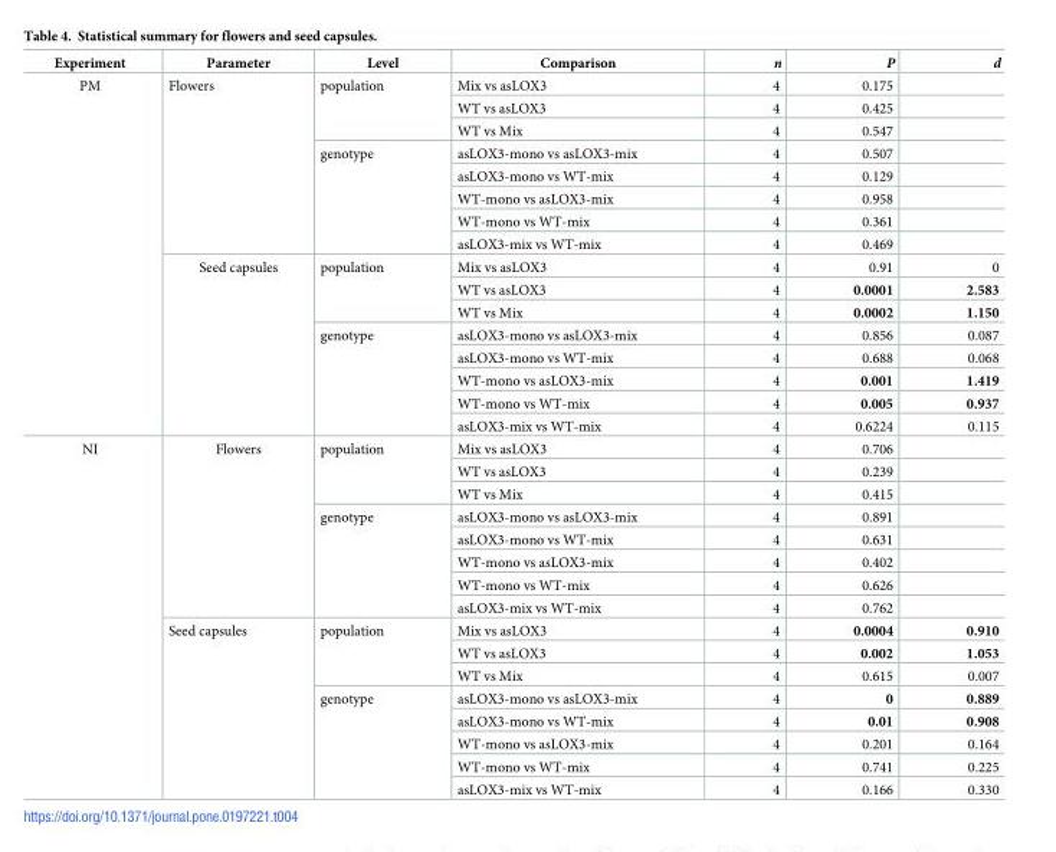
<table><thead><tr><td>Experiment</td><td>Parameter</td><td>Level</td><td>Comparison</td><td>n</td><td>P</td><td>d</td></tr></thead><tbody><tr><td rowspan="16">PM</td><td rowspan="8">Flowers</td><td rowspan="3">population</td><td>Mix vs asLOX3</td><td>4</td><td>0.175</td><td></td></tr><tr><td>WT vs asLOX3</td><td>4</td><td>0.425</td><td></td></tr><tr><td>WT vs Mix</td><td>4</td><td>0.547</td><td></td></tr><tr><td rowspan="5">genotype</td><td>asLOX3-mono vs asLOX3-mix</td><td>4</td><td>0.507</td><td></td></tr><tr><td>asLOX3-mono vs WT-mix</td><td>4</td><td>0.129</td><td></td></tr><tr><td>WT-mono vs asLOX3-mix</td><td>4</td><td>0.958</td><td></td></tr><tr><td>WT-mono vs WT-mix</td><td>4</td><td>0.361</td><td></td></tr><tr><td>asLOX3-mix vs WT-mix</td><td>4</td><td>0.469</td><td></td></tr><tr><td rowspan="8">Seed capsules</td><td rowspan="3">population</td><td>Mix vs asLOX3</td><td>4</td><td>0.91</td><td>0</td></tr><tr><td>WT vs asLOX3</td><td>4</td><td>0.0001</td><td>2.583</td></tr><tr><td>WT vs Mix</td><td>4</td><td>0.0002</td><td>1.150</td></tr><tr><td rowspan="5">genotype</td><td>asLOX3-mono vs asLOX3-mix</td><td>4</td><td>0.856</td><td>0.087</td></tr><tr><td>asLOX3-mono vs WT-mix</td><td>4</td><td>0.688</td><td>0.068</td></tr><tr><td>WT-mono vs asLOX3-mix</td><td>4</td><td>0.001</td><td>1.419</td></tr><tr><td>WT-mono vs WT-mix</td><td>4</td><td>0.005</td><td>0.937</td></tr><tr><td>asLOX3-mix vs WT-mix</td><td>4</td><td>0.6224</td><td>0.115</td></tr><tr><td rowspan="16">NI</td><td rowspan="8">Flowers</td><td rowspan="3">population</td><td>Mix vs asLOX3</td><td>4</td><td>0.706</td><td></td></tr><tr><td>WT vs asLOX3</td><td>4</td><td>0.239</td><td></td></tr><tr><td>WT vs Mix</td><td>4</td><td>0.415</td><td></td></tr><tr><td rowspan="5">genotype</td><td>asLOX3-mono vs asLOX3-mix</td><td>4</td><td>0.891</td><td></td></tr><tr><td>asLOX3-mono vs WT-mix</td><td>4</td><td>0.631</td><td></td></tr><tr><td>WT-mono vs asLOX3-mix</td><td>4</td><td>0.402</td><td></td></tr><tr><td>WT-mono vs WT-mix</td><td>4</td><td>0.626</td><td></td></tr><tr><td>asLOX3-mix vs WT-mix</td><td>4</td><td>0.762</td><td></td></tr><tr><td rowspan="8">Seed capsules</td><td rowspan="3">population</td><td>Mix vs asLOX3</td><td>4</td><td>0.0004</td><td>0.910</td></tr><tr><td>WT vs asLOX3</td><td>4</td><td>0.002</td><td>1.053</td></tr><tr><td>WT vs Mix</td><td>4</td><td>0.615</td><td>0.007</td></tr><tr><td rowspan="5">genotype</td><td>asLOX3-mono vs asLOX3-mix</td><td>4</td><td>0</td><td>0.889</td></tr><tr><td>asLOX3-mono vs WT-mix</td><td>4</td><td>0.01</td><td>0.908</td></tr><tr><td>WT-mono vs asLOX3-mix</td><td>4</td><td>0.201</td><td>0.164</td></tr><tr><td>WT-mono vs WT-mix</td><td>4</td><td>0.741</td><td>0.225</td></tr><tr><td>asLOX3-mix vs WT-mix</td><td>4</td><td>0.166</td><td>0.330</td></tr></tbody></table>